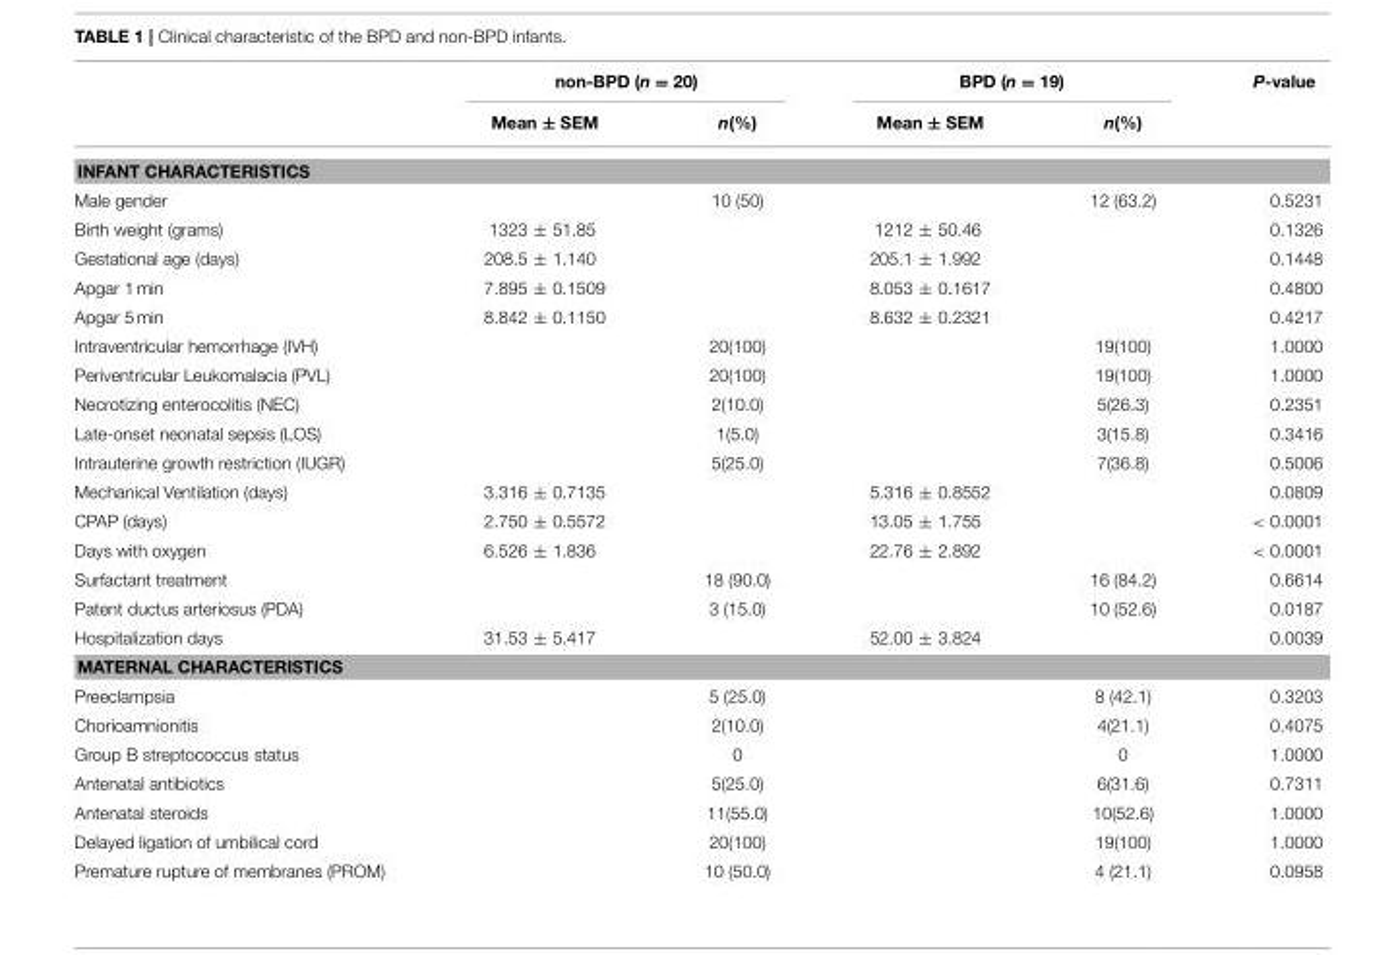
<table><thead><tr><td rowspan="2"></td><td colspan="2">non-BPD (n = 20)</td><td colspan="2">BPD (n = 19)</td><td rowspan="2">P-value</td></tr><tr><td>Mean ± SEM</td><td>n(%)</td><td>Mean ± SEM</td><td>n(%)</td></tr></thead><tbody><tr><td colspan="6">INFANT CHARACTERISTICS</td></tr><tr><td>Male gender</td><td></td><td>10 (50)</td><td></td><td>12 (63.2)</td><td>0.5231</td></tr><tr><td>Birth weight (grams)</td><td>1323 ± 51.85</td><td></td><td>1212 ± 50.46</td><td></td><td>0.1326</td></tr><tr><td>Gestational age (days)</td><td>208.5 ± 1.140</td><td></td><td>205.1 ± 1.992</td><td></td><td>0.1448</td></tr><tr><td>Apgar 1 min</td><td>7.895 ± 0.1509</td><td></td><td>8.053 ± 0.1617</td><td></td><td>0.4800</td></tr><tr><td>Apgar 5 min</td><td>8.842 ± 0.1150</td><td></td><td>8.632 ± 0.2321</td><td></td><td>0.4217</td></tr><tr><td>Intraventricular hemorrhage (IVH)</td><td></td><td>20(100)</td><td></td><td>19(100)</td><td>1.0000</td></tr><tr><td>Periventricular Leukomalacia (PVL)</td><td></td><td>20(100)</td><td></td><td>19(100)</td><td>1.0000</td></tr><tr><td>Necrotizing enterocolitis (NEC)</td><td></td><td>2(10.0)</td><td></td><td>5(26.3)</td><td>0.2351</td></tr><tr><td>Late-onset neonatal sepsis (LOS)</td><td></td><td>1(5.0)</td><td></td><td>3(15.8)</td><td>0.3416</td></tr><tr><td>Intrauterine growth restriction (IUGR)</td><td></td><td>5(25.0)</td><td></td><td>7(36.8)</td><td>0.5006</td></tr><tr><td>Mechanical Ventilation (days)</td><td>3.316 ± 0.7135</td><td></td><td>5.316 ± 0.8552</td><td></td><td>0.0809</td></tr><tr><td>CPAP (days)</td><td>2.750 ± 0.5572</td><td></td><td>13.05 ± 1.755</td><td></td><td>&lt; 0.0001</td></tr><tr><td>Days with oxygen</td><td>6.526 ± 1.836</td><td></td><td>22.76 ± 2.892</td><td></td><td>&lt; 0.0001</td></tr><tr><td>Surfactant treatment</td><td></td><td>18 (90.0)</td><td></td><td>16 (84.2)</td><td>0.6614</td></tr><tr><td>Patent ductus arteriosus (PDA)</td><td></td><td>3 (15.0)</td><td></td><td>10 (52.6)</td><td>0.0187</td></tr><tr><td>Hospitalization days</td><td>31.53 ± 5.417</td><td></td><td>52.00 ± 3.824</td><td></td><td>0.0039</td></tr><tr><td colspan="6">MATERNAL CHARACTERISTICS</td></tr><tr><td>Preeclampsia</td><td></td><td>5 (25.0)</td><td></td><td>8 (42.1)</td><td>0.3203</td></tr><tr><td>Chorioamnionitis</td><td></td><td>2(10.0)</td><td></td><td>4(21.1)</td><td>0.4075</td></tr><tr><td>Group B streptococcus status</td><td></td><td>0</td><td></td><td>0</td><td>1.0000</td></tr><tr><td>Antenatal antibiotics</td><td></td><td>5(25.0)</td><td></td><td>6(31.6)</td><td>0.7311</td></tr><tr><td>Antenatal steroids</td><td></td><td>11(55.0)</td><td></td><td>10(52.6)</td><td>1.0000</td></tr><tr><td>Delayed ligation of umbilical cord</td><td></td><td>20(100)</td><td></td><td>19(100)</td><td>1.0000</td></tr><tr><td>Premature rupture of membranes (PROM)</td><td></td><td>10 (50.0)</td><td></td><td>4 (21.1)</td><td>0.0958</td></tr></tbody></table>